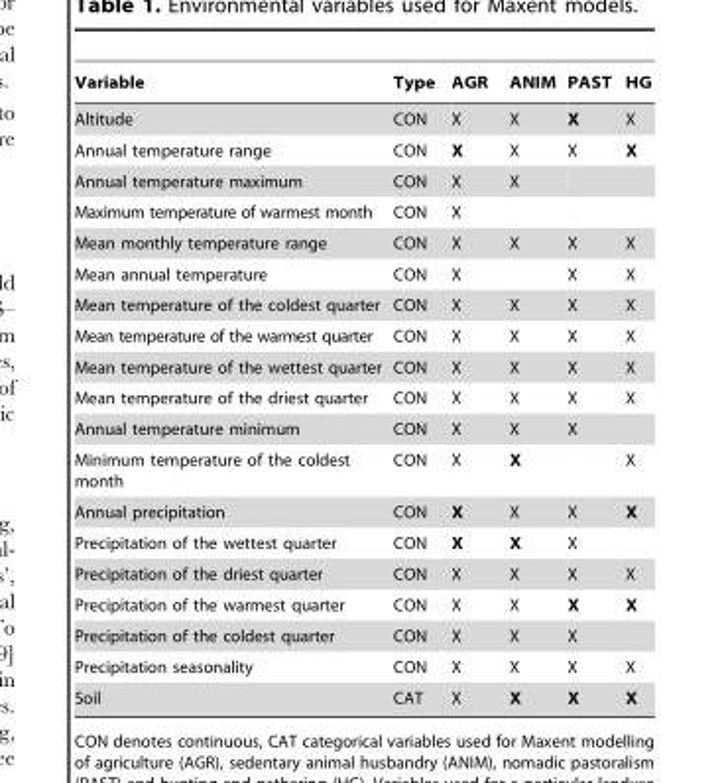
<table><thead><tr><td>Variable</td><td>Type</td><td>AGR</td><td>ANIM</td><td>PAST</td><td>HG</td></tr></thead><tbody><tr><td>Altitude</td><td>CON</td><td>X</td><td>X</td><td>X</td><td>X</td></tr><tr><td>Annual temperature range</td><td>CON</td><td>X</td><td>X</td><td>X</td><td>X</td></tr><tr><td>Annual temperature maximum</td><td>CON</td><td>X</td><td>X</td><td></td><td></td></tr><tr><td>Maximum temperature of warmest month</td><td>CON</td><td>X</td><td></td><td></td><td></td></tr><tr><td>Mean monthly temperature range</td><td>CON</td><td>X</td><td>X</td><td>X</td><td>X</td></tr><tr><td>Mean annual temperature</td><td>CON</td><td>X</td><td></td><td>X</td><td>X</td></tr><tr><td>Mean temperature of the coldest quarter</td><td>CON</td><td>X</td><td>X</td><td>X</td><td>X</td></tr><tr><td>Mean temperature of the warmest quarter</td><td>CON</td><td>X</td><td>X</td><td>X</td><td>X</td></tr><tr><td>Mean temperature of the wettest quarter</td><td>CON</td><td>X</td><td>X</td><td>X</td><td>X</td></tr><tr><td>Mean temperature of the driest quarter</td><td>CON</td><td>X</td><td>X</td><td>X</td><td>X</td></tr><tr><td>Annual temperature minimum</td><td>CON</td><td>X</td><td>X</td><td>X</td><td></td></tr><tr><td>Minimum temperature of the coldest month</td><td>CON</td><td>X</td><td>X</td><td></td><td>X</td></tr><tr><td>Annual precipitation</td><td>CON</td><td>X</td><td>X</td><td>X</td><td>X</td></tr><tr><td>Precipitation of the wettest quarter</td><td>CON</td><td>X</td><td>X</td><td>X</td><td></td></tr><tr><td>Precipitation of the driest quarter</td><td>CON</td><td>X</td><td>X</td><td>X</td><td>X</td></tr><tr><td>Precipitation of the warmest quarter</td><td>CON</td><td>X</td><td>X</td><td>X</td><td>X</td></tr><tr><td>Precipitation of the coldest quarter</td><td>CON</td><td>X</td><td>X</td><td>X</td><td></td></tr><tr><td>Precipitation seasonality</td><td>CON</td><td>X</td><td>X</td><td>X</td><td>X</td></tr><tr><td>Soil</td><td>CAT</td><td>X</td><td>X</td><td>X</td><td>X</td></tr></tbody></table>